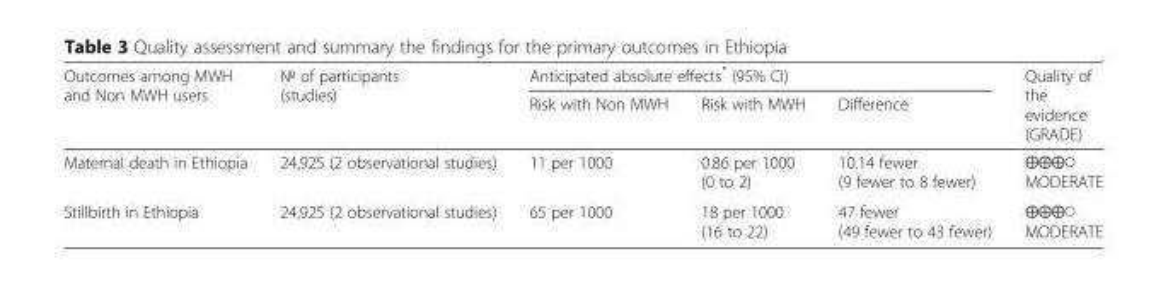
<table><thead><tr><td rowspan="2">Outcomes among MWH and Non MWH users</td><td rowspan="2">№ of participants (studies)</td><td colspan="3">Anticipated absolute effects* (95% CI)</td><td rowspan="2">Quality of the evidence (GRADE)</td></tr><tr><td>Risk with Non MWH</td><td>Risk with MWH</td><td>Difference</td></tr></thead><tbody><tr><td>Maternal death in Ethiopia</td><td>24,925 (2 observational studies)</td><td>11 per 1000</td><td>0.86 per 1000 (0 to 2)</td><td>10.14 fewer (9 fewer to 8 fewer)</td><td>⨁⨁⨁◯ MODERATE</td></tr><tr><td>Stillbirth in Ethiopia</td><td>24,925 (2 observational studies)</td><td>65 per 1000</td><td>18 per 1000 (16 to 22)</td><td>47 fewer (49 fewer to 43 fewer)</td><td>⨁⨁⨁◯ MODERATE</td></tr></tbody></table>